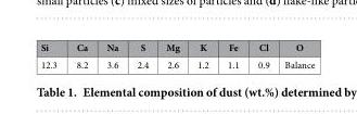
<table><thead><tr><td>Si</td><td>Ca</td><td>Na</td><td>S</td><td>Mg</td><td>K</td><td>Fe</td><td>Cl</td><td>O</td></tr></thead><tbody><tr><td>12.3</td><td>8.2</td><td>3.6</td><td>2.4</td><td>2.6</td><td>1.2</td><td>1.1</td><td>0.9</td><td>Balance</td></tr></tbody></table>